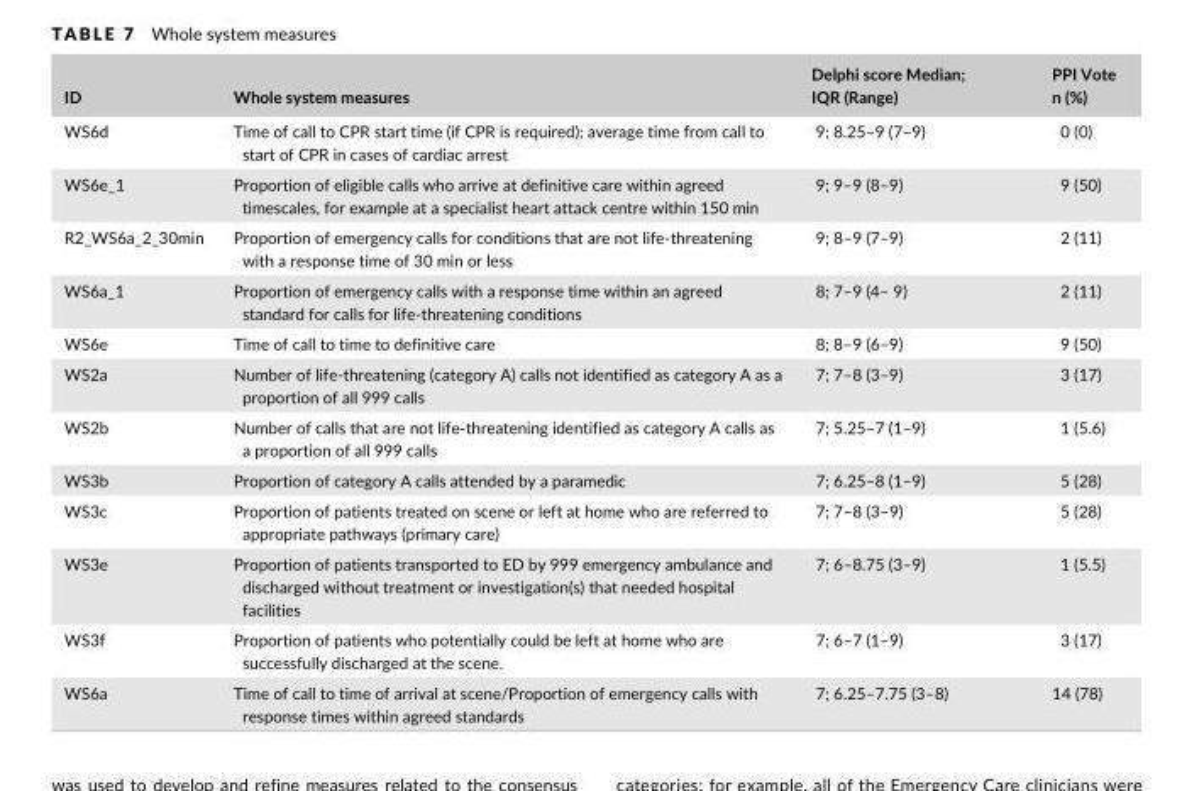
<table><thead><tr><td>ID</td><td>Whole system measures</td><td>Delphi score Median; IQR (Range)</td><td>PPI Vote n (%)</td></tr></thead><tbody><tr><td>WS6d</td><td>Time of call to CPR start time (if CPR is required); average time from call to start of CPR in cases of cardiac arrest</td><td>9; 8.25–9 (7–9)</td><td>0 (0)</td></tr><tr><td>WS6e_1</td><td>Proportion of eligible calls who arrive at definitive care within agreed timescales, for example at a specialist heart attack centre within 150 min</td><td>9; 9–9 (8–9)</td><td>9 (50)</td></tr><tr><td>R2_WS6a_2_30min</td><td>Proportion of emergency calls for conditions that are not life- threatening with a response time of 30 min or less</td><td>9; 8–9 (7–9)</td><td>2 (11)</td></tr><tr><td>WS6a_1</td><td>Proportion of emergency calls with a response time within an agreed standard for calls for life- threatening conditions</td><td>8; 7–9 (4– 9)</td><td>2 (11)</td></tr><tr><td>WS6e</td><td>Time of call to time to definitive care</td><td>8; 8–9 (6–9)</td><td>9 (50)</td></tr><tr><td>WS2a</td><td>Number of life- threatening (category A) calls not identified as category A as a proportion of all 999 calls</td><td>7; 7–8 (3–9)</td><td>3 (17)</td></tr><tr><td>WS2b</td><td>Number of calls that are not life- threatening identified as category A calls as a proportion of all 999 calls</td><td>7; 5.25–7 (1–9)</td><td>1 (5.6)</td></tr><tr><td>WS3b</td><td>Proportion of category A calls attended by a paramedic</td><td>7; 6.25–8 (1–9)</td><td>5 (28)</td></tr><tr><td>WS3c</td><td>Proportion of patients treated on scene or left at home who are referred to appropriate pathways (primary care)</td><td>7; 7–8 (3–9)</td><td>5 (28)</td></tr><tr><td>WS3e</td><td>Proportion of patients transported to ED by 999 emergency ambulance and discharged without treatment or investigation(s) that needed hospital facilities</td><td>7; 6–8.75 (3–9)</td><td>1 (5.5)</td></tr><tr><td>WS3f</td><td>Proportion of patients who potentially could be left at home who are successfully discharged at the scene.</td><td>7; 6–7 (1–9)</td><td>3 (17)</td></tr><tr><td>WS6a</td><td>Time of call to time of arrival at scene/Proportion of emergency calls with response times within agreed standards</td><td>7; 6.25–7.75 (3–8)</td><td>14 (78)</td></tr></tbody></table>